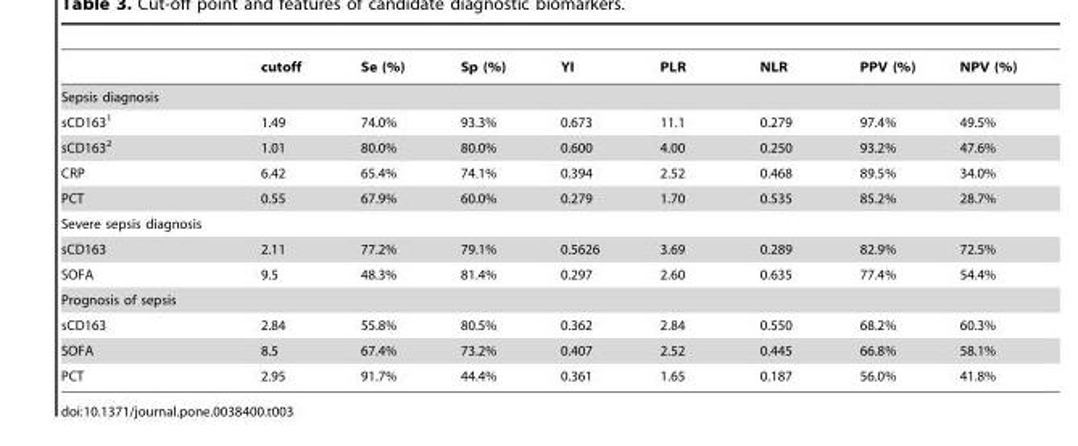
<table><thead><tr><td></td><td>cutoff</td><td>Se (%)</td><td>Sp (%)</td><td>YI</td><td>PLR</td><td>NLR</td><td>PPV (%)</td><td>NPV (%)</td></tr></thead><tbody><tr><td colspan="9">Sepsis diagnosis</td></tr><tr><td>sCD163<sup>1</sup></td><td>1.49</td><td>74.0%</td><td>93.3%</td><td>0.673</td><td>11.1</td><td>0.279</td><td>97.4%</td><td>49.5%</td></tr><tr><td>sCD163<sup>2</sup></td><td>1.01</td><td>80.0%</td><td>80.0%</td><td>0.600</td><td>4.00</td><td>0.250</td><td>93.2%</td><td>47.6%</td></tr><tr><td>CRP</td><td>6.42</td><td>65.4%</td><td>74.1%</td><td>0.394</td><td>2.52</td><td>0.468</td><td>89.5%</td><td>34.0%</td></tr><tr><td>PCT</td><td>0.55</td><td>67.9%</td><td>60.0%</td><td>0.279</td><td>1.70</td><td>0.535</td><td>85.2%</td><td>28.7%</td></tr><tr><td colspan="9">Severe sepsis diagnosis</td></tr><tr><td>sCD163</td><td>2.11</td><td>77.2%</td><td>79.1%</td><td>0.5626</td><td>3.69</td><td>0.289</td><td>82.9%</td><td>72.5%</td></tr><tr><td>SOFA</td><td>9.5</td><td>48.3%</td><td>81.4%</td><td>0.297</td><td>2.60</td><td>0.635</td><td>77.4%</td><td>54.4%</td></tr><tr><td colspan="9">Prognosis of sepsis</td></tr><tr><td>sCD163</td><td>2.84</td><td>55.8%</td><td>80.5%</td><td>0.362</td><td>2.84</td><td>0.550</td><td>68.2%</td><td>60.3%</td></tr><tr><td>SOFA</td><td>8.5</td><td>67.4%</td><td>73.2%</td><td>0.407</td><td>2.52</td><td>0.445</td><td>66.8%</td><td>58.1%</td></tr><tr><td>PCT</td><td>2.95</td><td>91.7%</td><td>44.4%</td><td>0.361</td><td>1.65</td><td>0.187</td><td>56.0%</td><td>41.8%</td></tr></tbody></table>